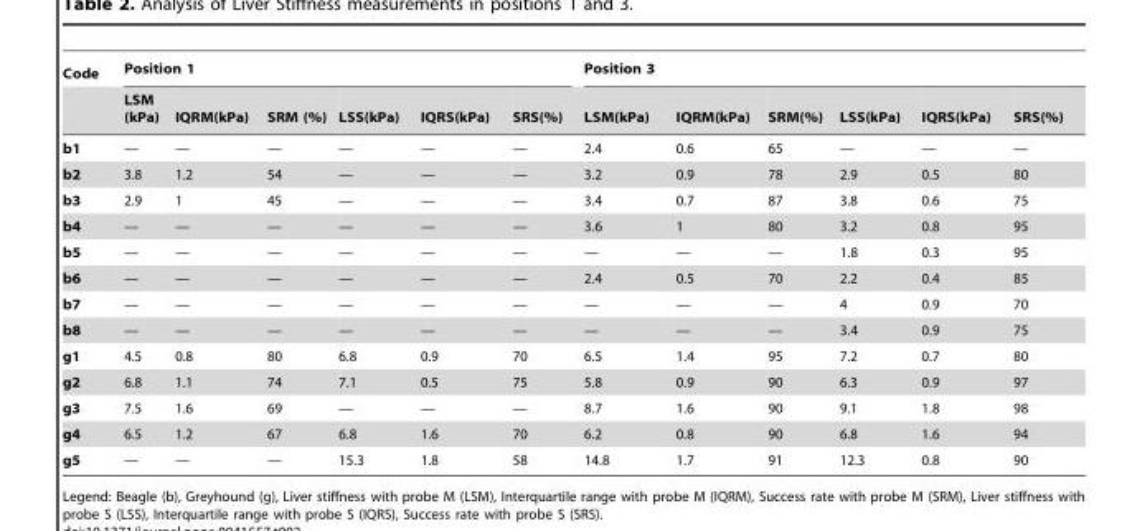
<table><thead><tr><td rowspan="2">Code</td><td colspan="6">Position 1</td><td colspan="6">Position 3</td></tr><tr><td>LSM (kPa)</td><td>IQRM(kPa)</td><td>SRM (%)</td><td>LSS(kPa)</td><td>IQRS(kPa)</td><td>SRS(%)</td><td>LSM(kPa)</td><td>IQRM(kPa)</td><td>SRM(%)</td><td>LSS(kPa)</td><td>IQRS(kPa)</td><td>SRS(%)</td></tr></thead><tbody><tr><td>b1</td><td>—</td><td>—</td><td>—</td><td>—</td><td>—</td><td>—</td><td>2.4</td><td>0.6</td><td>65</td><td>—</td><td>—</td><td>—</td></tr><tr><td>b2</td><td>3.8</td><td>1.2</td><td>54</td><td>—</td><td>—</td><td>—</td><td>3.2</td><td>0.9</td><td>78</td><td>2.9</td><td>0.5</td><td>80</td></tr><tr><td>b3</td><td>2.9</td><td>1</td><td>45</td><td>—</td><td>—</td><td>—</td><td>3.4</td><td>0.7</td><td>87</td><td>3.8</td><td>0.6</td><td>75</td></tr><tr><td>b4</td><td>—</td><td>—</td><td>—</td><td>—</td><td>—</td><td>—</td><td>3.6</td><td>1</td><td>80</td><td>3.2</td><td>0.8</td><td>95</td></tr><tr><td>b5</td><td>—</td><td>—</td><td>—</td><td>—</td><td>—</td><td>—</td><td>—</td><td>—</td><td>—</td><td>1.8</td><td>0.3</td><td>95</td></tr><tr><td>b6</td><td>—</td><td>—</td><td>—</td><td>—</td><td>—</td><td>—</td><td>2.4</td><td>0.5</td><td>70</td><td>2.2</td><td>0.4</td><td>85</td></tr><tr><td>b7</td><td>—</td><td>—</td><td>—</td><td>—</td><td>—</td><td>—</td><td>—</td><td>—</td><td>—</td><td>4</td><td>0.9</td><td>70</td></tr><tr><td>b8</td><td>—</td><td>—</td><td>—</td><td>—</td><td>—</td><td>—</td><td>—</td><td>—</td><td>—</td><td>3.4</td><td>0.9</td><td>75</td></tr><tr><td>g1</td><td>4.5</td><td>0.8</td><td>80</td><td>6.8</td><td>0.9</td><td>70</td><td>6.5</td><td>1.4</td><td>95</td><td>7.2</td><td>0.7</td><td>80</td></tr><tr><td>g2</td><td>6.8</td><td>1.1</td><td>74</td><td>7.1</td><td>0.5</td><td>75</td><td>5.8</td><td>0.9</td><td>90</td><td>6.3</td><td>0.9</td><td>97</td></tr><tr><td>g3</td><td>7.5</td><td>1.6</td><td>69</td><td>—</td><td>—</td><td>—</td><td>8.7</td><td>1.6</td><td>90</td><td>9.1</td><td>1.8</td><td>98</td></tr><tr><td>g4</td><td>6.5</td><td>1.2</td><td>67</td><td>6.8</td><td>1.6</td><td>70</td><td>6.2</td><td>0.8</td><td>90</td><td>6.8</td><td>1.6</td><td>94</td></tr><tr><td>g5</td><td>—</td><td>—</td><td>—</td><td>15.3</td><td>1.8</td><td>58</td><td>14.8</td><td>1.7</td><td>91</td><td>12.3</td><td>0.8</td><td>90</td></tr></tbody></table>